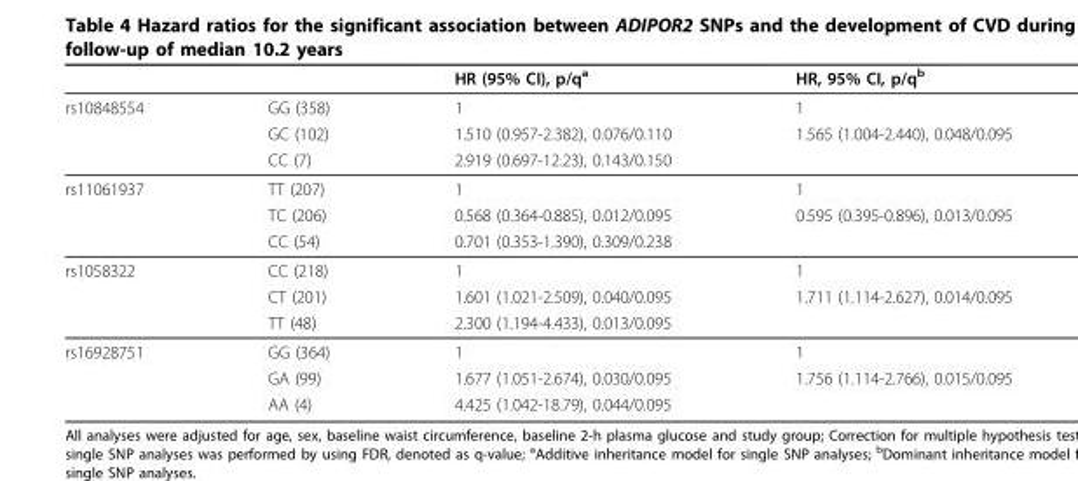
<table><thead><tr><td></td><td></td><td>HR (95% CI), p/q<sup>a</sup></td><td>HR, 95% CI, p/q<sup>b</sup></td></tr></thead><tbody><tr><td rowspan="3">rs10848554</td><td>GG (358)</td><td>1</td><td>1</td></tr><tr><td>GC (102)</td><td>1.510 (0.957-2.382), 0.076/0.110</td><td>1.565 (1.004-2.440), 0.048/0.095</td></tr><tr><td>CC (7)</td><td>2.919 (0.697-12.23), 0.143/0.150</td><td></td></tr><tr><td rowspan="3">rs11061937</td><td>TT (207)</td><td>1</td><td>1</td></tr><tr><td>TC (206)</td><td>0.568 (0.364-0.885), 0.012/0.095</td><td>0.595 (0.395-0.896), 0.013/0.095</td></tr><tr><td>CC (54)</td><td>0.701 (0.353-1.390), 0.309/0.238</td><td></td></tr><tr><td rowspan="3">rs1058322</td><td>CC (218)</td><td>1</td><td>1</td></tr><tr><td>CT (201)</td><td>1.601 (1.021-2.509), 0.040/0.095</td><td>1.711 (1.114-2.627), 0.014/0.095</td></tr><tr><td>TT (48)</td><td>2.300 (1.194-4.433), 0.013/0.095</td><td></td></tr><tr><td rowspan="3">rs16928751</td><td>GG (364)</td><td>1</td><td>1</td></tr><tr><td>GA (99)</td><td>1.677 (1.051-2.674), 0.030/0.095</td><td>1.756 (1.114-2.766), 0.015/0.095</td></tr><tr><td>AA (4)</td><td>4.425 (1.042-18.79), 0.044/0.095</td><td></td></tr></tbody></table>